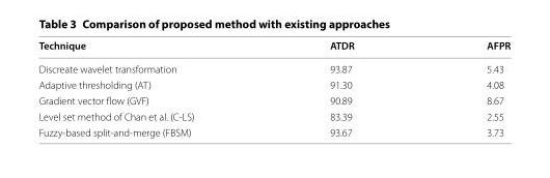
<table><thead><tr><td>Technique</td><td>ATDR</td><td>AFPR</td></tr></thead><tbody><tr><td>Discreate wavelet transformation</td><td>93.87</td><td>5.43</td></tr><tr><td>Adaptive thresholding (AT)</td><td>91.30</td><td>4.08</td></tr><tr><td>Gradient vector flow (GVF)</td><td>90.89</td><td>8.67</td></tr><tr><td>Level set method of Chan et al. (C-LS)</td><td>83.39</td><td>2.55</td></tr><tr><td>Fuzzy-based split-and-merge (FBSM)</td><td>93.67</td><td>3.73</td></tr></tbody></table>